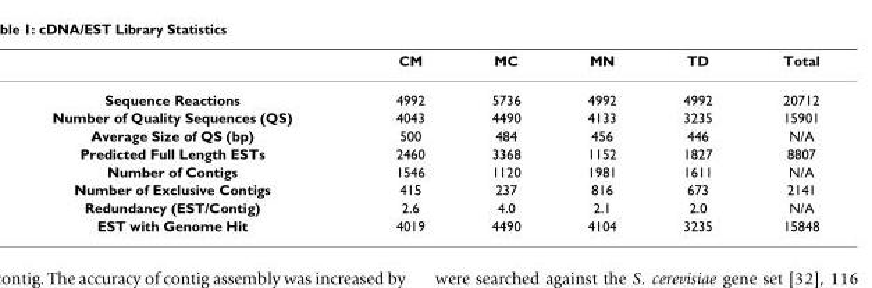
<table><thead><tr><td></td><td>CM</td><td>MC</td><td>MN</td><td>TD</td><td>Total</td></tr></thead><tbody><tr><td>Sequence Reactions</td><td>4992</td><td>5736</td><td>4992</td><td>4992</td><td>20712</td></tr><tr><td>Number of Quality Sequences (QS)</td><td>4043</td><td>4490</td><td>4133</td><td>3235</td><td>15901</td></tr><tr><td>Average Size of QS (bp)</td><td>500</td><td>484</td><td>456</td><td>446</td><td>N/A</td></tr><tr><td>Predicted Full Length ESTs</td><td>2460</td><td>3368</td><td>1152</td><td>1827</td><td>8807</td></tr><tr><td>Number of Contigs</td><td>1546</td><td>1120</td><td>1981</td><td>1611</td><td>N/A</td></tr><tr><td>Number of Exclusive Contigs</td><td>415</td><td>237</td><td>816</td><td>673</td><td>2141</td></tr><tr><td>Redundancy (EST/Contig)</td><td>2.6</td><td>4.0</td><td>2.1</td><td>2.0</td><td>N/A</td></tr><tr><td>EST with Genome Hit</td><td>4019</td><td>4490</td><td>4104</td><td>3235</td><td>15848</td></tr></tbody></table>